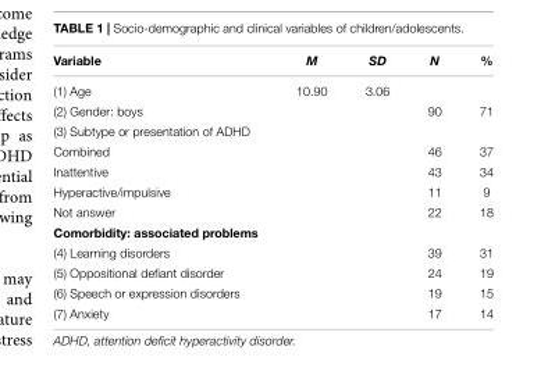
<table><thead><tr><td>Variable</td><td>M</td><td>SD</td><td>N</td><td>%</td></tr></thead><tbody><tr><td>(1) Age</td><td>10.90</td><td>3.06</td><td></td><td></td></tr><tr><td>(2) Gender: boys</td><td></td><td></td><td>90</td><td>71</td></tr><tr><td colspan="5">(3) Subtype or presentation of ADHD</td></tr><tr><td>Combined</td><td></td><td></td><td>46</td><td>37</td></tr><tr><td>Inattentive</td><td></td><td></td><td>43</td><td>34</td></tr><tr><td>Hyperactive/impulsive</td><td></td><td></td><td>11</td><td>9</td></tr><tr><td>Not answer</td><td></td><td></td><td>22</td><td>18</td></tr><tr><td colspan="5">Comorbidity: associated problems</td></tr><tr><td>(4) Learning disorders</td><td></td><td></td><td>39</td><td>31</td></tr><tr><td>(5) Oppositional defiant disorder</td><td></td><td></td><td>24</td><td>19</td></tr><tr><td>(6) Speech or expression disorders</td><td></td><td></td><td>19</td><td>15</td></tr><tr><td>(7) Anxiety</td><td></td><td></td><td>17</td><td>14</td></tr></tbody></table>